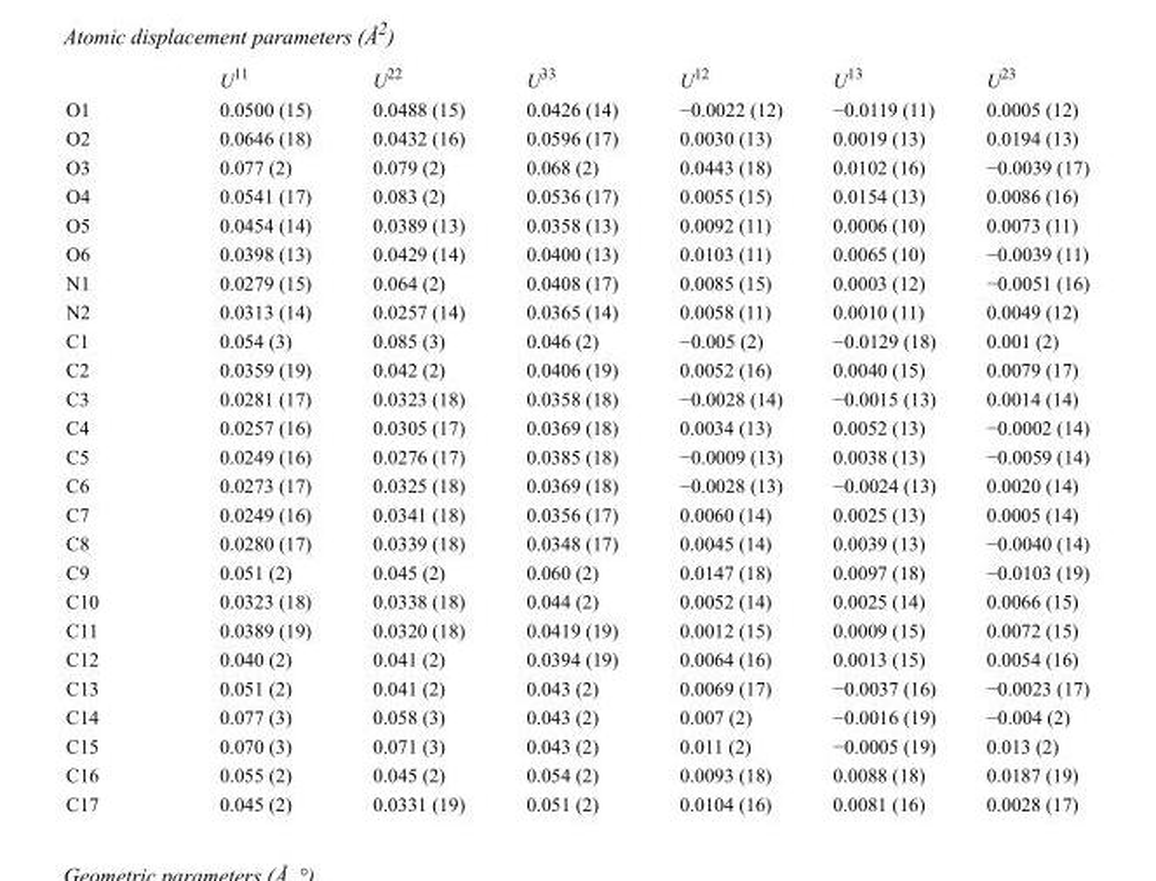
<table><thead><tr><td></td><td>U<sup>11</sup></td><td>U<sup>22</sup></td><td>U<sup>33</sup></td><td>U<sup>12</sup></td><td>U<sup>13</sup></td><td>U<sup>23</sup></td></tr></thead><tbody><tr><td>O1</td><td>0.0500 (15)</td><td>0.0488 (15)</td><td>0.0426 (14)</td><td>−0.0022 (12)</td><td>−0.0119 (11)</td><td>0.0005 (12)</td></tr><tr><td>O2</td><td>0.0646 (18)</td><td>0.0432 (16)</td><td>0.0596 (17)</td><td>0.0030 (13)</td><td>0.0019 (13)</td><td>0.0194 (13)</td></tr><tr><td>O3</td><td>0.077 (2)</td><td>0.079 (2)</td><td>0.068 (2)</td><td>0.0443 (18)</td><td>0.0102 (16)</td><td>−0.0039 (17)</td></tr><tr><td>O4</td><td>0.0541 (17)</td><td>0.083 (2)</td><td>0.0536 (17)</td><td>0.0055 (15)</td><td>0.0154 (13)</td><td>0.0086 (16)</td></tr><tr><td>O5</td><td>0.0454 (14)</td><td>0.0389 (13)</td><td>0.0358 (13)</td><td>0.0092 (11)</td><td>0.0006 (10)</td><td>0.0073 (11)</td></tr><tr><td>O6</td><td>0.0398 (13)</td><td>0.0429 (14)</td><td>0.0400 (13)</td><td>0.0103 (11)</td><td>0.0065 (10)</td><td>−0.0039 (11)</td></tr><tr><td>N1</td><td>0.0279 (15)</td><td>0.064 (2)</td><td>0.0408 (17)</td><td>0.0085 (15)</td><td>0.0003 (12)</td><td>−0.0051 (16)</td></tr><tr><td>N2</td><td>0.0313 (14)</td><td>0.0257 (14)</td><td>0.0365 (14)</td><td>0.0058 (11)</td><td>0.0010 (11)</td><td>0.0049 (12)</td></tr><tr><td>C1</td><td>0.054 (3)</td><td>0.085 (3)</td><td>0.046 (2)</td><td>−0.005 (2)</td><td>−0.0129 (18)</td><td>0.001 (2)</td></tr><tr><td>C2</td><td>0.0359 (19)</td><td>0.042 (2)</td><td>0.0406 (19)</td><td>0.0052 (16)</td><td>0.0040 (15)</td><td>0.0079 (17)</td></tr><tr><td>C3</td><td>0.0281 (17)</td><td>0.0323 (18)</td><td>0.0358 (18)</td><td>−0.0028 (14)</td><td>−0.0015 (13)</td><td>0.0014 (14)</td></tr><tr><td>C4</td><td>0.0257 (16)</td><td>0.0305 (17)</td><td>0.0369 (18)</td><td>0.0034 (13)</td><td>0.0052 (13)</td><td>−0.0002 (14)</td></tr><tr><td>C5</td><td>0.0249 (16)</td><td>0.0276 (17)</td><td>0.0385 (18)</td><td>−0.0009 (13)</td><td>0.0038 (13)</td><td>−0.0059 (14)</td></tr><tr><td>C6</td><td>0.0273 (17)</td><td>0.0325 (18)</td><td>0.0369 (18)</td><td>−0.0028 (13)</td><td>−0.0024 (13)</td><td>0.0020 (14)</td></tr><tr><td>C7</td><td>0.0249 (16)</td><td>0.0341 (18)</td><td>0.0356 (17)</td><td>0.0060 (14)</td><td>0.0025 (13)</td><td>0.0005 (14)</td></tr><tr><td>C8</td><td>0.0280 (17)</td><td>0.0339 (18)</td><td>0.0348 (17)</td><td>0.0045 (14)</td><td>0.0039 (13)</td><td>−0.0040 (14)</td></tr><tr><td>C9</td><td>0.051 (2)</td><td>0.045 (2)</td><td>0.060 (2)</td><td>0.0147 (18)</td><td>0.0097 (18)</td><td>−0.0103 (19)</td></tr><tr><td>C10</td><td>0.0323 (18)</td><td>0.0338 (18)</td><td>0.044 (2)</td><td>0.0052 (14)</td><td>0.0025 (14)</td><td>0.0066 (15)</td></tr><tr><td>C11</td><td>0.0389 (19)</td><td>0.0320 (18)</td><td>0.0419 (19)</td><td>0.0012 (15)</td><td>0.0009 (15)</td><td>0.0072 (15)</td></tr><tr><td>C12</td><td>0.040 (2)</td><td>0.041 (2)</td><td>0.0394 (19)</td><td>0.0064 (16)</td><td>0.0013 (15)</td><td>0.0054 (16)</td></tr><tr><td>C13</td><td>0.051 (2)</td><td>0.041 (2)</td><td>0.043 (2)</td><td>0.0069 (17)</td><td>−0.0037 (16)</td><td>−0.0023 (17)</td></tr><tr><td>C14</td><td>0.077 (3)</td><td>0.058 (3)</td><td>0.043 (2)</td><td>0.007 (2)</td><td>−0.0016 (19)</td><td>−0.004 (2)</td></tr><tr><td>C15</td><td>0.070 (3)</td><td>0.071 (3)</td><td>0.043 (2)</td><td>0.011 (2)</td><td>−0.0005 (19)</td><td>0.013 (2)</td></tr><tr><td>C16</td><td>0.055 (2)</td><td>0.045 (2)</td><td>0.054 (2)</td><td>0.0093 (18)</td><td>0.0088 (18)</td><td>0.0187 (19)</td></tr><tr><td>C17</td><td>0.045 (2)</td><td>0.0331 (19)</td><td>0.051 (2)</td><td>0.0104 (16)</td><td>0.0081 (16)</td><td>0.0028 (17)</td></tr></tbody></table>